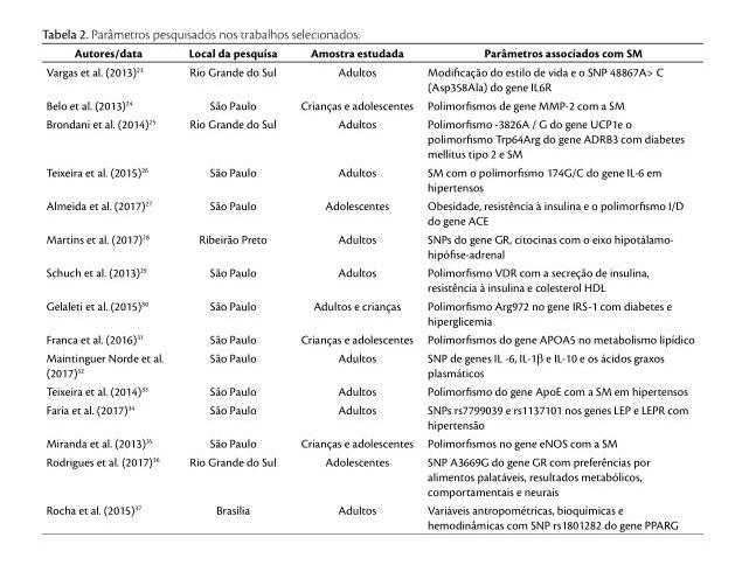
<table><thead><tr><td>Autores/data</td><td>Local da pesquisa</td><td>Amostra estudada</td><td>Parâmetros associados com SM</td></tr></thead><tbody><tr><td>Vargas et al. (2013)23</td><td>Rio Grande do Sul</td><td>Adultos</td><td>Modificação do estilo de vida e o SNP 48867A&gt; C (Asp358Ala) do gene IL6R</td></tr><tr><td>Belo et al. (2013)24</td><td>São Paulo</td><td>Crianças e adolescentes</td><td>Polimorfismos de gene MMP-2 com a SM</td></tr><tr><td>Brondani et al. (2014)25</td><td>Rio Grande do Sul</td><td>Adultos</td><td>Polimorfismo -3826A / G do gene UCP1e o polimorfismo Trp64Arg do gene ADRB3 com diabetes mellitus tipo 2 e SM</td></tr><tr><td>Teixeira et al. (2015)26</td><td>São Paulo</td><td>Adultos</td><td>SM com o polimorfismo 174G/C do gene IL-6 em hipertensos</td></tr><tr><td>Almeida et al. (2017)27</td><td>São Paulo</td><td>Adolescentes</td><td>Obesidade, resistência à insulina e o polimorfismo I/D do gene ACE</td></tr><tr><td>Martins et al. (2017)28</td><td>Ribeirão Preto</td><td>Adultos</td><td>SNPs do gene GR, citocinas com o eixo hipotálamo- hipófise-adrenal</td></tr><tr><td>Schuch et al. (2013)29</td><td>São Paulo</td><td>Adultos</td><td>Polimorfismo VDR com a secreção de insulina, resistência à insulina e colesterol HDL</td></tr><tr><td>Gelaleti et al. (2015)30</td><td>São Paulo</td><td>Adultos e crianças</td><td>Polimorfismo Arg972 no gene IRS-1 com diabetes e hiperglicemia</td></tr><tr><td>Franca et al. (2016)31</td><td>São Paulo</td><td>Crianças e adolescentes</td><td>Polimorfismos do gene APOA5 no metabolismo lipídico</td></tr><tr><td>Maintinguer Norde et al. (2017)32</td><td>São Paulo</td><td>Adultos</td><td>SNP de genes IL -6, IL-1β e IL-10 e os ácidos graxos plasmáticos</td></tr><tr><td>Teixeira et al. (2014)33</td><td>São Paulo</td><td>Adultos</td><td>Polimorfismo do gene ApoE com a SM em hipertensos</td></tr><tr><td>Faria et al. (2017)34</td><td>São Paulo</td><td>Adultos</td><td>SNPs rs7799039 e rs1137101 nos genes LEP e LEPR com hipertensão</td></tr><tr><td>Miranda et al. (2013)35</td><td>São Paulo</td><td>Crianças e adolescentes</td><td>Polimorfismos no gene eNOS com a SM</td></tr><tr><td>Rodrigues et al. (2017)36</td><td>Rio Grande do Sul</td><td>Adolescentes</td><td>SNP A3669G do gene GR com preferências por alimentos palatáveis, resultados metabólicos, comportamentais e neurais</td></tr><tr><td>Rocha et al. (2015)37</td><td>Brasília</td><td>Adultos</td><td>Variáveis antropométricas, bioquímicas e hemodinâmicas com SNP rs1801282 do gene PPARG</td></tr></tbody></table>